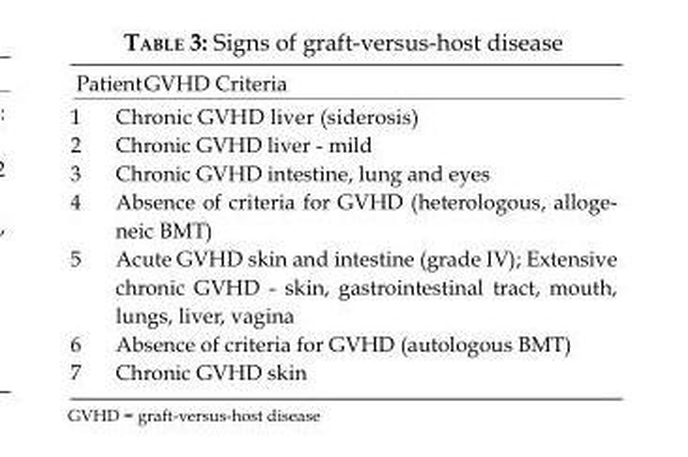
<table><thead><tr><td colspan="2">Patient GVHD Criteria</td></tr><tr><td>1</td><td>Chronic GVHD liver (siderosis)</td></tr></thead><tbody><tr><td>2</td><td>Chronic GVHD liver - mild</td></tr><tr><td>3</td><td>Chronic GVHD intestine, lung and eyes</td></tr><tr><td>4</td><td>Absence of criteria for GVHD (heterologous, alloge- neic BMT)</td></tr><tr><td>5</td><td>Acute GVHD skin and intestine (grade IV); Extensive chronic GVHD - skin, gastrointestinal tract, mouth, lungs, liver, vagina</td></tr><tr><td>6</td><td>Absence of criteria for GVHD (autologous BMT)</td></tr><tr><td>7</td><td>Chronic GVHD skin</td></tr></tbody></table>